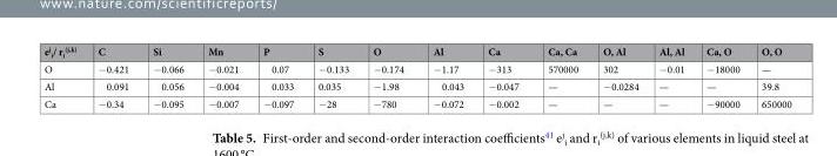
<table><thead><tr><td>e<sup>j</sup> <sub>i</sub>/ r<sub>i</sub> <sup>(j,k)</sup></td><td>C</td><td>Si</td><td>Mn</td><td>P</td><td>S</td><td>O</td><td>Al</td><td>Ca</td><td>Ca, Ca</td><td>O, Al</td><td>Al, Al</td><td>Ca, O</td><td>O, O</td></tr></thead><tbody><tr><td>O</td><td>−0.421</td><td>−0.066</td><td>−0.021</td><td>0.07</td><td>−0.133</td><td>−0.174</td><td>−1.17</td><td>−313</td><td>570000</td><td>302</td><td>−0.01</td><td>−18000</td><td>—</td></tr><tr><td>Al</td><td>0.091</td><td>0.056</td><td>−0.004</td><td>0.033</td><td>0.035</td><td>−1.98</td><td>0.043</td><td>−0.047</td><td>—</td><td>−0.0284</td><td>—</td><td>—</td><td>39.8</td></tr><tr><td>Ca</td><td>−0.34</td><td>−0.095</td><td>−0.007</td><td>−0.097</td><td>−28</td><td>−780</td><td>−0.072</td><td>−0.002</td><td>—</td><td>—</td><td>—</td><td>−90000</td><td>650000</td></tr></tbody></table>